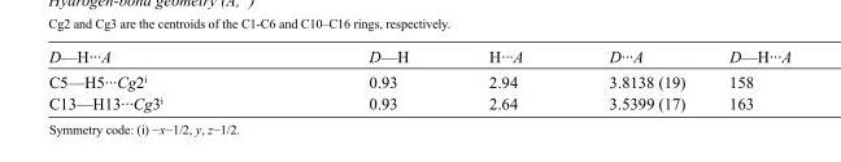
<table><tbody><tr><td>D—H···A</td><td>D—H</td><td>H···A</td><td>D···A</td><td>D—H···A</td></tr><tr><td>C5—H5···Cg2<sup>i</sup></td><td>0.93</td><td>2.94</td><td>3.8138 (19)</td><td>158</td></tr><tr><td>C13—H13···Cg3<sup>i</sup></td><td>0.93</td><td>2.64</td><td>3.5399 (17)</td><td>163</td></tr></tbody></table>